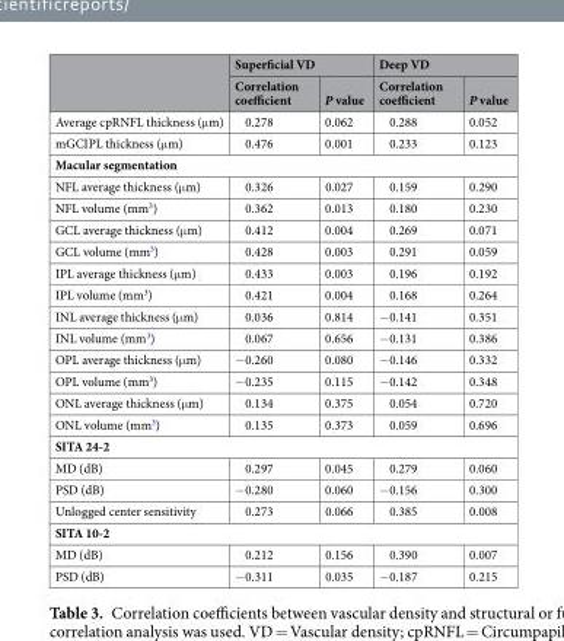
<table><thead><tr><td rowspan="2"></td><td colspan="2">Superficial VD</td><td colspan="2">Deep VD</td></tr><tr><td>Correlation coefficient</td><td>P value</td><td>Correlation coefficient</td><td>P value</td></tr></thead><tbody><tr><td>Average cpRNFL thickness (μm)</td><td>0.278</td><td>0.062</td><td>0.288</td><td>0.052</td></tr><tr><td>mGCIPL thickness (μm)</td><td>0.476</td><td>0.001</td><td>0.233</td><td>0.123</td></tr><tr><td colspan="5">Macular segmentation</td></tr><tr><td>NFL average thickness (μm)</td><td>0.326</td><td>0.027</td><td>0.159</td><td>0.290</td></tr><tr><td>NFL volume (mm<sup>3</sup>)</td><td>0.362</td><td>0.013</td><td>0.180</td><td>0.230</td></tr><tr><td>GCL average thickness (μm)</td><td>0.412</td><td>0.004</td><td>0.269</td><td>0.071</td></tr><tr><td>GCL volume (mm<sup>3</sup>)</td><td>0.428</td><td>0.003</td><td>0.291</td><td>0.059</td></tr><tr><td>IPL average thickness (μm)</td><td>0.433</td><td>0.003</td><td>0.196</td><td>0.192</td></tr><tr><td>IPL volume (mm<sup>3</sup>)</td><td>0.421</td><td>0.004</td><td>0.168</td><td>0.264</td></tr><tr><td>INL average thickness (μm)</td><td>0.036</td><td>0.814</td><td>−0.141</td><td>0.351</td></tr><tr><td>INL volume (mm<sup>3</sup>)</td><td>0.067</td><td>0.656</td><td>−0.131</td><td>0.386</td></tr><tr><td>OPL average thickness (μm)</td><td>−0.260</td><td>0.080</td><td>−0.146</td><td>0.332</td></tr><tr><td>OPL volume (mm<sup>3</sup>)</td><td>−0.235</td><td>0.115</td><td>−0.142</td><td>0.348</td></tr><tr><td>ONL average thickness (μm)</td><td>0.134</td><td>0.375</td><td>0.054</td><td>0.720</td></tr><tr><td>ONL volume (mm<sup>3</sup>)</td><td>0.135</td><td>0.373</td><td>0.059</td><td>0.696</td></tr><tr><td colspan="5">SITA 24-2</td></tr><tr><td>MD (dB)</td><td>0.297</td><td>0.045</td><td>0.279</td><td>0.060</td></tr><tr><td>PSD (dB)</td><td>−0.280</td><td>0.060</td><td>−0.156</td><td>0.300</td></tr><tr><td>Unlogged center sensitivity</td><td>0.273</td><td>0.066</td><td>0.385</td><td>0.008</td></tr><tr><td colspan="5">SITA 10-2</td></tr><tr><td>MD (dB)</td><td>0.212</td><td>0.156</td><td>0.390</td><td>0.007</td></tr><tr><td>PSD (dB)</td><td>−0.311</td><td>0.035</td><td>−0.187</td><td>0.215</td></tr></tbody></table>